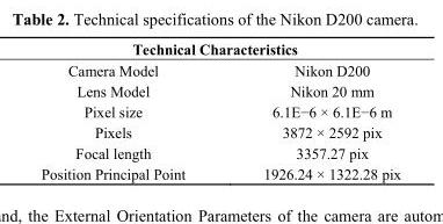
<table><thead><tr><td colspan="2">Technical Characteristics</td></tr><tr><td>Camera Model</td><td>Nikon D200</td></tr></thead><tbody><tr><td>Lens Model</td><td>Nikon 20 mm</td></tr><tr><td>Pixel size</td><td>6.1E−6 × 6.1E−6 m</td></tr><tr><td>Pixels</td><td>3872 × 2592 pix</td></tr><tr><td>Focal length</td><td>3357.27 pix</td></tr><tr><td>Position Principal Point</td><td>1926.24 × 1322.28 pix</td></tr></tbody></table>